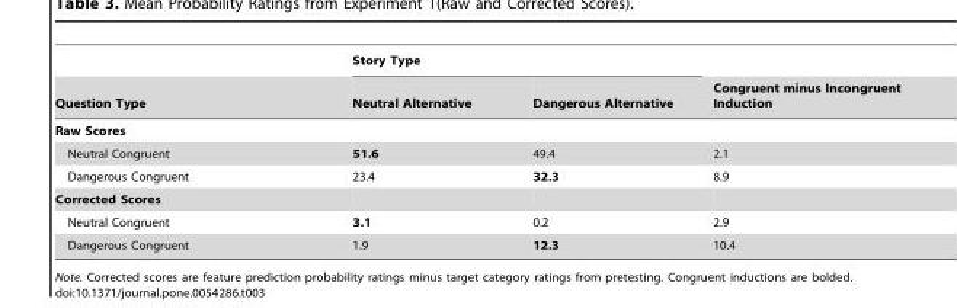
<table><thead><tr><td rowspan="2">Question Type</td><td colspan="2">Story Type</td><td rowspan="2">Congruent minus Incongruent Induction</td></tr><tr><td>Neutral Alternative</td><td>Dangerous Alternative</td></tr></thead><tbody><tr><td colspan="4">Raw Scores</td></tr><tr><td>Neutral Congruent</td><td>51.6</td><td>49.4</td><td>2.1</td></tr><tr><td>Dangerous Congruent</td><td>23.4</td><td>32.3</td><td>8.9</td></tr><tr><td colspan="4">Corrected Scores</td></tr><tr><td>Neutral Congruent</td><td>3.1</td><td>0.2</td><td>2.9</td></tr><tr><td>Dangerous Congruent</td><td>1.9</td><td>12.3</td><td>10.4</td></tr></tbody></table>